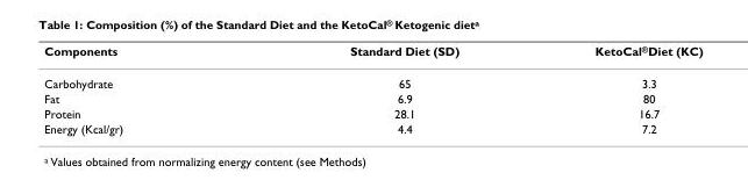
<table><thead><tr><td>Components</td><td>Standard Diet (SD)</td><td>KetoCal<sup>®</sup>Diet (KC)</td></tr></thead><tbody><tr><td>Carbohydrate</td><td>65</td><td>3.3</td></tr><tr><td>Fat</td><td>6.9</td><td>80</td></tr><tr><td>Protein</td><td>28.1</td><td>16.7</td></tr><tr><td>Energy (Kcal/gr)</td><td>4.4</td><td>7.2</td></tr></tbody></table>